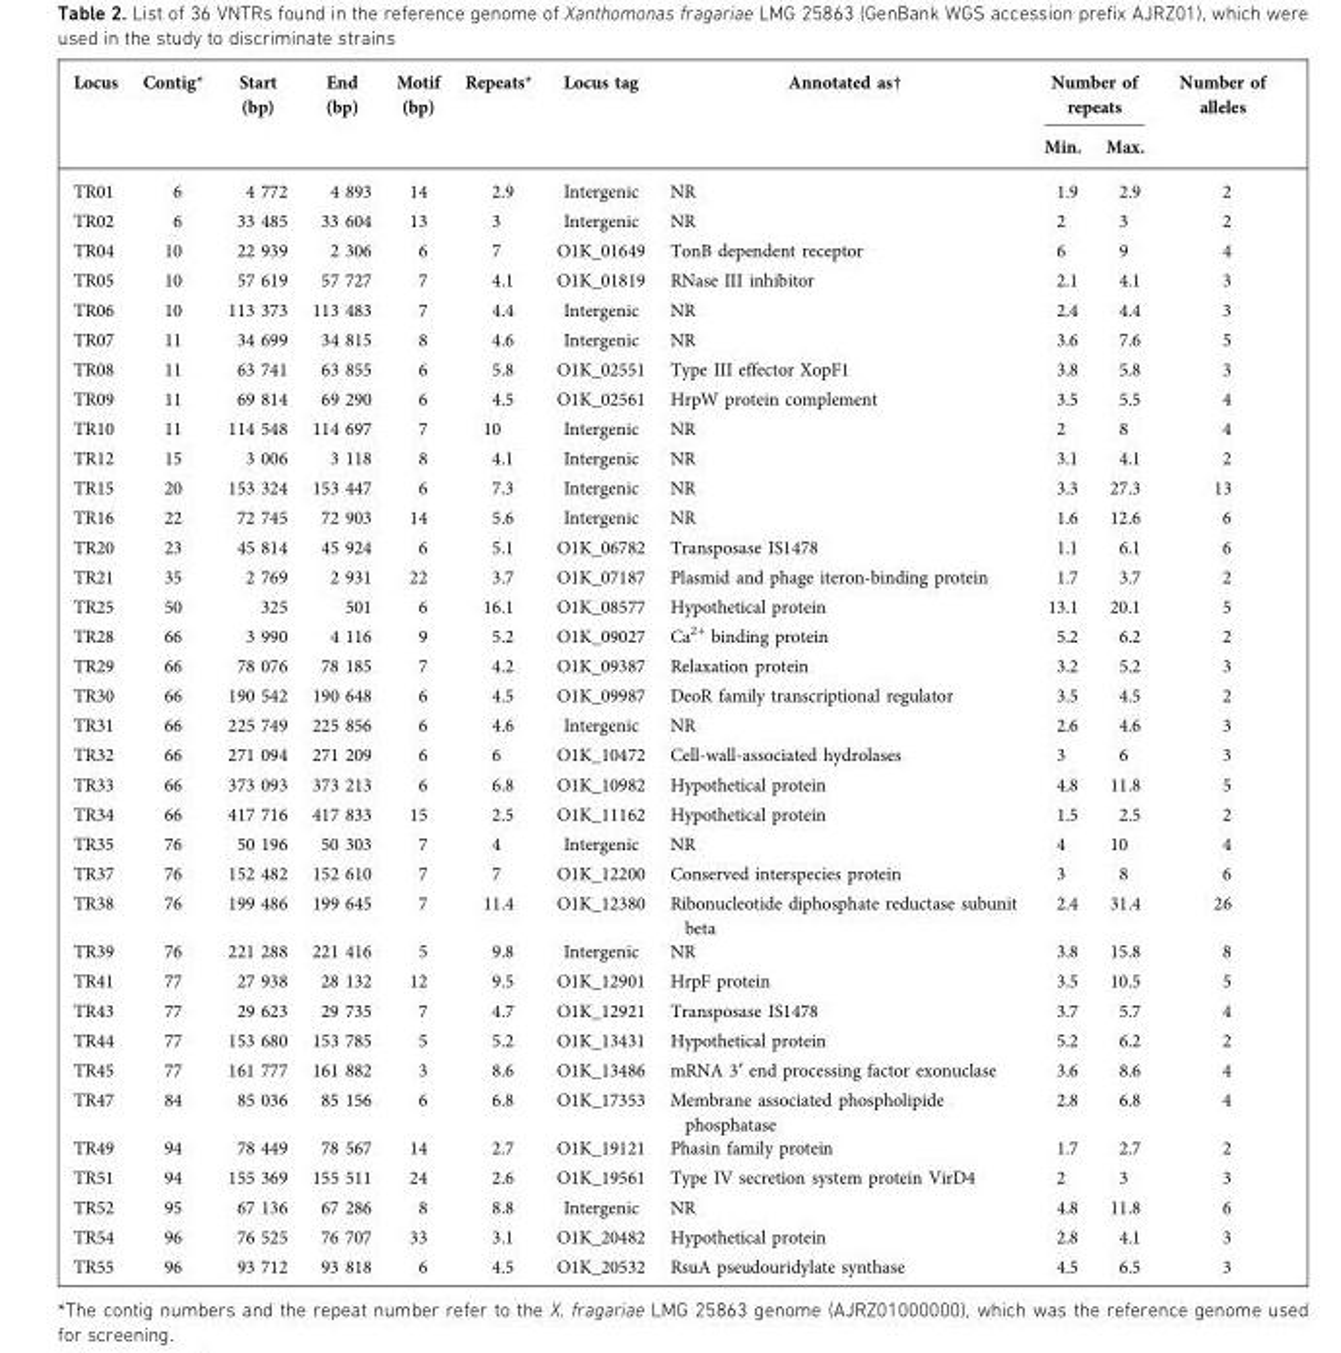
<table><thead><tr><td rowspan="2">Locus</td><td rowspan="2">Contig*</td><td rowspan="2">Start (bp)</td><td rowspan="2">End (bp)</td><td rowspan="2">Motif (bp)</td><td rowspan="2">Repeats*</td><td rowspan="2">Locus tag</td><td rowspan="2">Annotated as†</td><td colspan="2">Number of repeats</td><td rowspan="2">Number of alleles</td></tr><tr><td>Min.</td><td>Max.</td></tr></thead><tbody><tr><td>TR01</td><td>6</td><td>4 772</td><td>4 893</td><td>14</td><td>2.9</td><td>Intergenic</td><td>NR</td><td>1.9</td><td>2.9</td><td>2</td></tr><tr><td>TR02</td><td>6</td><td>33 485</td><td>33 604</td><td>13</td><td>3</td><td>Intergenic</td><td>NR</td><td>2</td><td>3</td><td>2</td></tr><tr><td>TR04</td><td>10</td><td>22 939</td><td>2 306</td><td>6</td><td>7</td><td>O1K_01649</td><td>TonB dependent receptor</td><td>6</td><td>9</td><td>4</td></tr><tr><td>TR05</td><td>10</td><td>57 619</td><td>57 727</td><td>7</td><td>4.1</td><td>O1K_01819</td><td>RNase III inhibitor</td><td>2.1</td><td>4.1</td><td>3</td></tr><tr><td>TR06</td><td>10</td><td>113 373</td><td>113 483</td><td>7</td><td>4.4</td><td>Intergenic</td><td>NR</td><td>2.4</td><td>4.4</td><td>3</td></tr><tr><td>TR07</td><td>11</td><td>34 699</td><td>34 815</td><td>8</td><td>4.6</td><td>Intergenic</td><td>NR</td><td>3.6</td><td>7.6</td><td>5</td></tr><tr><td>TR08</td><td>11</td><td>63 741</td><td>63 855</td><td>6</td><td>5.8</td><td>O1K_02551</td><td>Type III effector XopF1</td><td>3.8</td><td>5.8</td><td>3</td></tr><tr><td>TR09</td><td>11</td><td>69 814</td><td>69 290</td><td>6</td><td>4.5</td><td>O1K_02561</td><td>HrpW protein complement</td><td>3.5</td><td>5.5</td><td>4</td></tr><tr><td>TR10</td><td>11</td><td>114 548</td><td>114 697</td><td>7</td><td>10</td><td>Intergenic</td><td>NR</td><td>2</td><td>8</td><td>4</td></tr><tr><td>TR12</td><td>15</td><td>3 006</td><td>3 118</td><td>8</td><td>4.1</td><td>Intergenic</td><td>NR</td><td>3.1</td><td>4.1</td><td>2</td></tr><tr><td>TR15</td><td>20</td><td>153 324</td><td>153 447</td><td>6</td><td>7.3</td><td>Intergenic</td><td>NR</td><td>3.3</td><td>27.3</td><td>13</td></tr><tr><td>TR16</td><td>22</td><td>72 745</td><td>72 903</td><td>14</td><td>5.6</td><td>Intergenic</td><td>NR</td><td>1.6</td><td>12.6</td><td>6</td></tr><tr><td>TR20</td><td>23</td><td>45 814</td><td>45 924</td><td>6</td><td>5.1</td><td>O1K_06782</td><td>Transposase IS1478</td><td>1.1</td><td>6.1</td><td>6</td></tr><tr><td>TR21</td><td>35</td><td>2 769</td><td>2 931</td><td>22</td><td>3.7</td><td>O1K_07187</td><td>Plasmid and phage iteron-binding protein</td><td>1.7</td><td>3.7</td><td>2</td></tr><tr><td>TR25</td><td>50</td><td>325</td><td>501</td><td>6</td><td>16.1</td><td>O1K_08577</td><td>Hypothetical protein</td><td>13.1</td><td>20.1</td><td>5</td></tr><tr><td>TR28</td><td>66</td><td>3 990</td><td>4 116</td><td>9</td><td>5.2</td><td>O1K_09027</td><td>Ca<sup>2+</sup> binding protein</td><td>5.2</td><td>6.2</td><td>2</td></tr><tr><td>TR29</td><td>66</td><td>78 076</td><td>78 185</td><td>7</td><td>4.2</td><td>O1K_09387</td><td>Relaxation protein</td><td>3.2</td><td>5.2</td><td>3</td></tr><tr><td>TR30</td><td>66</td><td>190 542</td><td>190 648</td><td>6</td><td>4.5</td><td>O1K_09987</td><td>DeoR family transcriptional regulator</td><td>3.5</td><td>4.5</td><td>2</td></tr><tr><td>TR31</td><td>66</td><td>225 749</td><td>225 856</td><td>6</td><td>4.6</td><td>Intergenic</td><td>NR</td><td>2.6</td><td>4.6</td><td>3</td></tr><tr><td>TR32</td><td>66</td><td>271 094</td><td>271 209</td><td>6</td><td>6</td><td>O1K_10472</td><td>Cell-wall-associated hydrolases</td><td>3</td><td>6</td><td>3</td></tr><tr><td>TR33</td><td>66</td><td>373 093</td><td>373 213</td><td>6</td><td>6.8</td><td>O1K_10982</td><td>Hypothetical protein</td><td>4.8</td><td>11.8</td><td>5</td></tr><tr><td>TR34</td><td>66</td><td>417 716</td><td>417 833</td><td>15</td><td>2.5</td><td>O1K_11162</td><td>Hypothetical protein</td><td>1.5</td><td>2.5</td><td>2</td></tr><tr><td>TR35</td><td>76</td><td>50 196</td><td>50 303</td><td>7</td><td>4</td><td>Intergenic</td><td>NR</td><td>4</td><td>10</td><td>4</td></tr><tr><td>TR37</td><td>76</td><td>152 482</td><td>152 610</td><td>7</td><td>7</td><td>O1K_12200</td><td>Conserved interspecies protein</td><td>3</td><td>8</td><td>6</td></tr><tr><td>TR38</td><td>76</td><td>199 486</td><td>199 645</td><td>7</td><td>11.4</td><td>O1K_12380</td><td>Ribonucleotide diphosphate reductase subunit beta</td><td>2.4</td><td>31.4</td><td>26</td></tr><tr><td>TR39</td><td>76</td><td>221 288</td><td>221 416</td><td>5</td><td>9.8</td><td>Intergenic</td><td>NR</td><td>3.8</td><td>15.8</td><td>8</td></tr><tr><td>TR41</td><td>77</td><td>27 938</td><td>28 132</td><td>12</td><td>9.5</td><td>O1K_12901</td><td>HrpF protein</td><td>3.5</td><td>10.5</td><td>5</td></tr><tr><td>TR43</td><td>77</td><td>29 623</td><td>29 735</td><td>7</td><td>4.7</td><td>O1K_12921</td><td>Transposase IS1478</td><td>3.7</td><td>5.7</td><td>4</td></tr><tr><td>TR44</td><td>77</td><td>153 680</td><td>153 785</td><td>5</td><td>5.2</td><td>O1K_13431</td><td>Hypothetical protein</td><td>5.2</td><td>6.2</td><td>2</td></tr><tr><td>TR45</td><td>77</td><td>161 777</td><td>161 882</td><td>3</td><td>8.6</td><td>O1K_13486</td><td>mRNA 3¢ end processing factor exonuclase</td><td>3.6</td><td>8.6</td><td>4</td></tr><tr><td>TR47</td><td>84</td><td>85 036</td><td>85 156</td><td>6</td><td>6.8</td><td>O1K_17353</td><td>Membrane associated phospholipide phosphatase</td><td>2.8</td><td>6.8</td><td>4</td></tr><tr><td>TR49</td><td>94</td><td>78 449</td><td>78 567</td><td>14</td><td>2.7</td><td>O1K_19121</td><td>Phasin family protein</td><td>1.7</td><td>2.7</td><td>2</td></tr><tr><td>TR51</td><td>94</td><td>155 369</td><td>155 511</td><td>24</td><td>2.6</td><td>O1K_19561</td><td>Type IV secretion system protein VirD4</td><td>2</td><td>3</td><td>3</td></tr><tr><td>TR52</td><td>95</td><td>67 136</td><td>67 286</td><td>8</td><td>8.8</td><td>Intergenic</td><td>NR</td><td>4.8</td><td>11.8</td><td>6</td></tr><tr><td>TR54</td><td>96</td><td>76 525</td><td>76 707</td><td>33</td><td>3.1</td><td>O1K_20482</td><td>Hypothetical protein</td><td>2.8</td><td>4.1</td><td>3</td></tr><tr><td>TR55</td><td>96</td><td>93 712</td><td>93 818</td><td>6</td><td>4.5</td><td>O1K_20532</td><td>RsuA pseudouridylate synthase</td><td>4.5</td><td>6.5</td><td>3</td></tr></tbody></table>